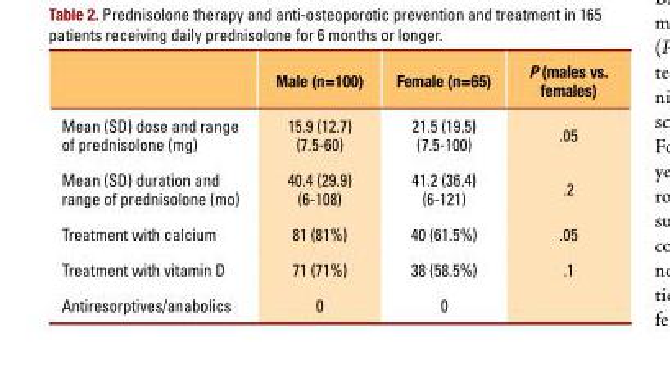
<table><thead><tr><td></td><td>Male (n=100)</td><td>Female (n=65)</td><td>P (males vs. females)</td></tr></thead><tbody><tr><td>Mean (Sd) dose and range of prednisolone (mg)</td><td>15.9 (12.7) (7.5-60)</td><td>21.5 (19.5) (7.5-100)</td><td>.05</td></tr><tr><td>Mean (Sd) duration and range of prednisolone (mo)</td><td>40.4 (29.9) (6-108)</td><td>41.2 (36.4) (6-121)</td><td>.2</td></tr><tr><td>treatment with calcium</td><td>81 (81%)</td><td>40 (61.5%)</td><td>.05</td></tr><tr><td>treatment with vitamin d</td><td>71 (71%)</td><td>38 (58.5%)</td><td>.1</td></tr><tr><td>Antiresorptives/anabolics</td><td>0</td><td>0</td><td></td></tr></tbody></table>